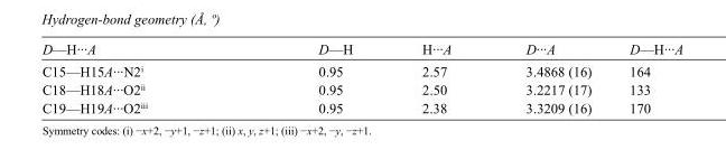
<table><tbody><tr><td>D—H···A</td><td>D—H</td><td>H···A</td><td>D···A</td><td>D—H···A</td></tr><tr><td>C15—H15A···N2<sup>i</sup></td><td>0.95</td><td>2.57</td><td>3.4868 (16)</td><td>164</td></tr><tr><td>C18—H18A···O2<sup>ii</sup></td><td>0.95</td><td>2.50</td><td>3.2217 (17)</td><td>133</td></tr><tr><td>C19—H19A···O2<sup>iii</sup></td><td>0.95</td><td>2.38</td><td>3.3209 (16)</td><td>170</td></tr></tbody></table>